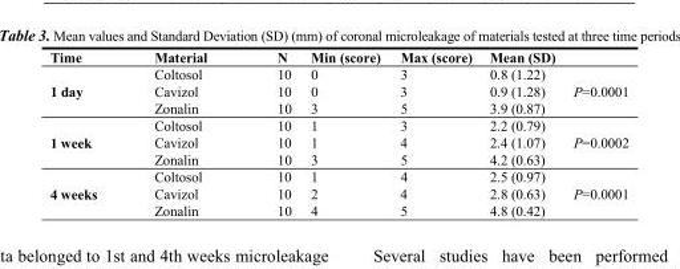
<table><thead><tr><td>Time</td><td>Material</td><td>N</td><td>Min (score)</td><td>Max (score)</td><td>Mean (SD)</td><td></td></tr></thead><tbody><tr><td rowspan="3">1 day</td><td>Coltosol</td><td>10</td><td>0</td><td>3</td><td>0.8 (1.22)</td><td rowspan="3">P=0.0001</td></tr><tr><td>Cavizol</td><td>10</td><td>0</td><td>3</td><td>0.9 (1.28)</td></tr><tr><td>Zonalin</td><td>10</td><td>3</td><td>5</td><td>3.9 (0.87)</td></tr><tr><td rowspan="3">1 week</td><td>Coltosol</td><td>10</td><td>1</td><td>3</td><td>2.2 (0.79)</td><td rowspan="3">P=0.0002</td></tr><tr><td>Cavizol</td><td>10</td><td>1</td><td>4</td><td>2.4 (1.07)</td></tr><tr><td>Zonalin</td><td>10</td><td>3</td><td>5</td><td>4.2 (0.63)</td></tr><tr><td rowspan="3">4 weeks</td><td>Coltosol</td><td>10</td><td>1</td><td>4</td><td>2.5 (0.97)</td><td rowspan="3">P=0.0001</td></tr><tr><td>Cavizol</td><td>10</td><td>2</td><td>4</td><td>2.8 (0.63)</td></tr><tr><td>Zonalin</td><td>10</td><td>4</td><td>5</td><td>4.8 (0.42)</td></tr></tbody></table>